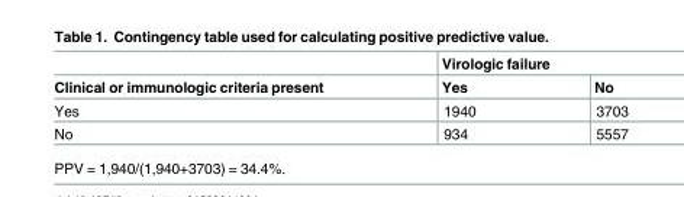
<table><thead><tr><td rowspan="2">Clinical or immunologic criteria present</td><td colspan="2">Virologic failure</td></tr><tr><td>Yes</td><td>No</td></tr></thead><tbody><tr><td>Yes</td><td>1940</td><td>3703</td></tr><tr><td>No</td><td>934</td><td>5557</td></tr></tbody></table>